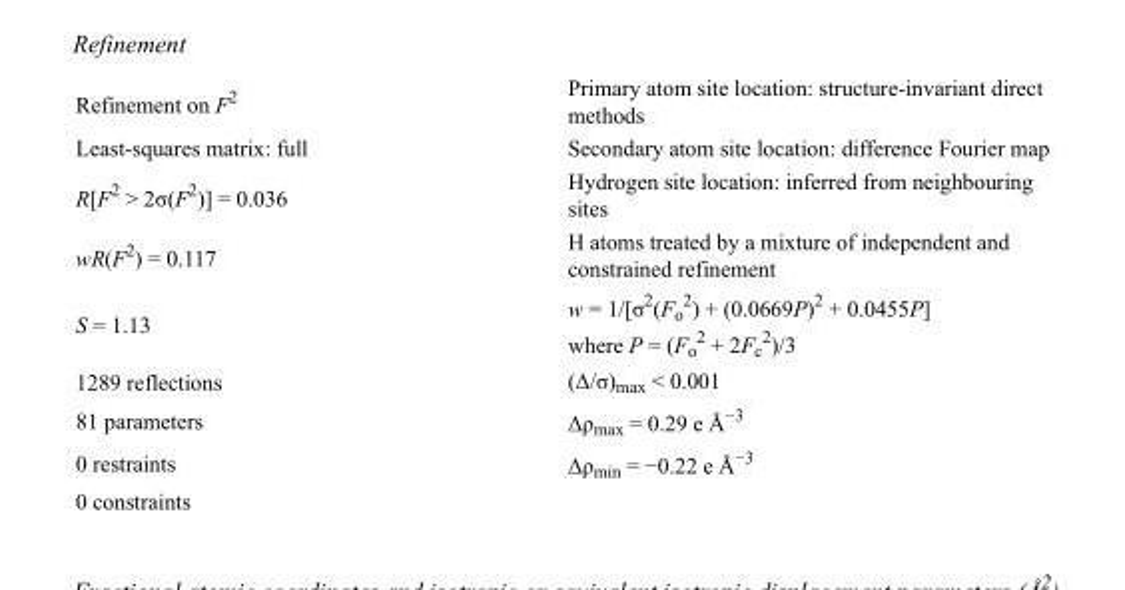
<table><tbody><tr><td>Refinement on F<sup>2</sup></td><td>Primary atom site location: structure-invariant direct methods</td></tr><tr><td>Least-squares matrix: full</td><td>Secondary atom site location: difference Fourier map</td></tr><tr><td>R[F<sup>2</sup> &gt; 2σ(F<sup>2</sup>)] = 0.036</td><td>Hydrogen site location: inferred from neighbouring sites</td></tr><tr><td>wR(F<sup>2</sup>) = 0.117</td><td>H atoms treated by a mixture of independent and constrained refinement</td></tr><tr><td>S = 1.13</td><td>w = 1/[σ<sup>2</sup>(F<sub>o</sub> <sup>2</sup>) + (0.0669P)<sup>2</sup> + 0.0455P] where P = (F<sub>o</sub> <sup>2</sup> + 2F<sub>c</sub> <sup>2</sup>)/3</td></tr><tr><td>1289 reflections</td><td>(Δ/σ)<sub>max</sub> &lt; 0.001</td></tr><tr><td>81 parameters</td><td>Δρ<sub>max</sub> = 0.29 e Å<sup>−3</sup></td></tr><tr><td>0 restraints</td><td>Δρ<sub>min</sub> = −0.22 e Å<sup>−3</sup></td></tr><tr><td>0 constraints</td><td></td></tr></tbody></table>